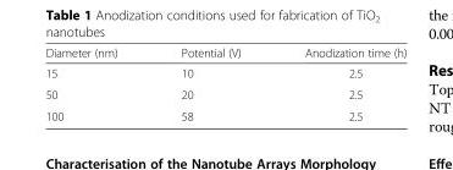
<table><thead><tr><td>Diameter (nm)</td><td>Potential (V)</td><td>Anodization time (h)</td></tr></thead><tbody><tr><td>15</td><td>10</td><td>2.5</td></tr><tr><td>50</td><td>20</td><td>2.5</td></tr><tr><td>100</td><td>58</td><td>2.5</td></tr></tbody></table>